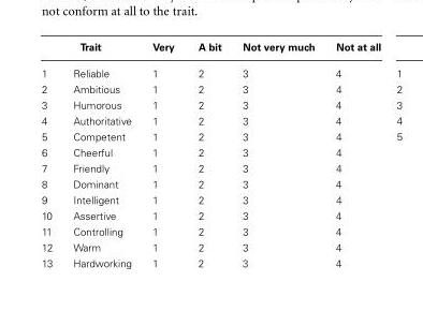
<table><thead><tr><td></td><td>Trait</td><td>Very</td><td>A bit</td><td>Not very much</td><td>Not at all</td></tr></thead><tbody><tr><td>1</td><td>Reliable</td><td>1</td><td>2</td><td>3</td><td>4</td></tr><tr><td>2</td><td>Ambitious</td><td>1</td><td>2</td><td>3</td><td>4</td></tr><tr><td>3</td><td>Humorous</td><td>1</td><td>2</td><td>3</td><td>4</td></tr><tr><td>4</td><td>Authoritative</td><td>1</td><td>2</td><td>3</td><td>4</td></tr><tr><td>5</td><td>Competent</td><td>1</td><td>2</td><td>3</td><td>4</td></tr><tr><td>6</td><td>Cheerful</td><td>1</td><td>2</td><td>3</td><td>4</td></tr><tr><td>7</td><td>Friendly</td><td>1</td><td>2</td><td>3</td><td>4</td></tr><tr><td>8</td><td>Dominant</td><td>1</td><td>2</td><td>3</td><td>4</td></tr><tr><td>9</td><td>Intelligent</td><td>1</td><td>2</td><td>3</td><td>4</td></tr><tr><td>10</td><td>Assertive</td><td>1</td><td>2</td><td>3</td><td>4</td></tr><tr><td>11</td><td>Controlling</td><td>1</td><td>2</td><td>3</td><td>4</td></tr><tr><td>12</td><td>Warm</td><td>1</td><td>2</td><td>3</td><td>4</td></tr><tr><td>13</td><td>Hardworking</td><td>1</td><td>2</td><td>3</td><td>4</td></tr></tbody></table>